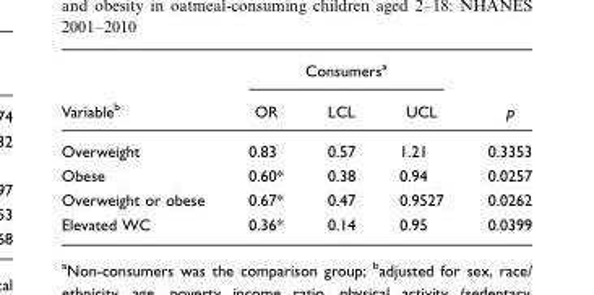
<table><thead><tr><td rowspan="2">Variable<sup>b</sup></td><td colspan="3">Consumers<sup>a</sup></td><td rowspan="2">p</td></tr><tr><td>OR</td><td>LCL</td><td>UCL</td></tr></thead><tbody><tr><td>Overweight</td><td>0.83</td><td>0.57</td><td>1.21</td><td>0.3353</td></tr><tr><td>Obese</td><td>0.60*</td><td>0.38</td><td>0.94</td><td>0.0257</td></tr><tr><td>Overweight or obese</td><td>0.67*</td><td>0.47</td><td>0.9527</td><td>0.0262</td></tr><tr><td>Elevated WC</td><td>0.36*</td><td>0.14</td><td>0.95</td><td>0.0399</td></tr></tbody></table>